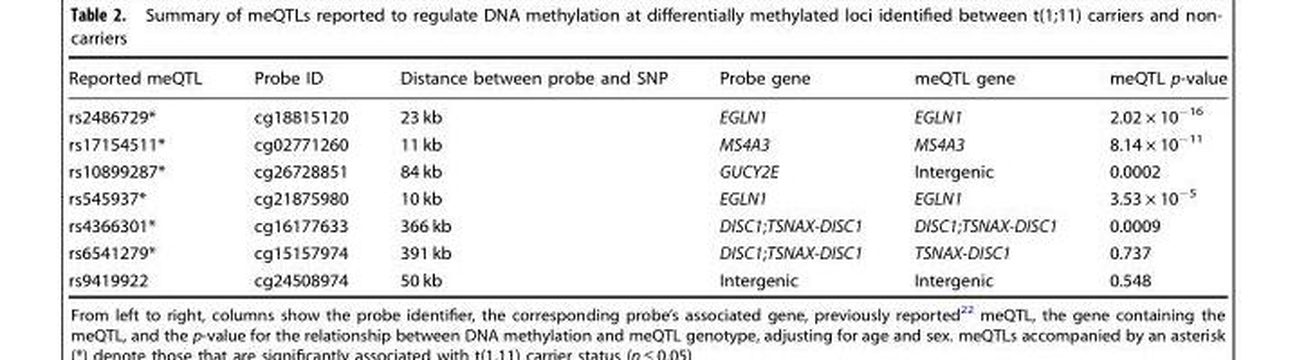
<table><thead><tr><td>Reported meQTL</td><td>Probe ID</td><td>Distance between probe and SNP</td><td>Probe gene</td><td>meQTL gene</td><td>meQTL p-value</td></tr></thead><tbody><tr><td>rs2486729*</td><td>cg18815120</td><td>23 kb</td><td>EGLN1</td><td>EGLN1</td><td>2.02 × 10<sup>−16</sup></td></tr><tr><td>rs17154511*</td><td>cg02771260</td><td>11 kb</td><td>MS4A3</td><td>MS4A3</td><td>8.14 × 10<sup>−11</sup></td></tr><tr><td>rs10899287*</td><td>cg26728851</td><td>84 kb</td><td>GUCY2E</td><td>Intergenic</td><td>0.0002</td></tr><tr><td>rs545937*</td><td>cg21875980</td><td>10 kb</td><td>EGLN1</td><td>EGLN1</td><td>3.53 × 10<sup>−5</sup></td></tr><tr><td>rs4366301*</td><td>cg16177633</td><td>366 kb</td><td>DISC1;TSNAX-DISC1</td><td>DISC1;TSNAX-DISC1</td><td>0.0009</td></tr><tr><td>rs6541279*</td><td>cg15157974</td><td>391 kb</td><td>DISC1;TSNAX-DISC1</td><td>TSNAX-DISC1</td><td>0.737</td></tr><tr><td>rs9419922</td><td>cg24508974</td><td>50 kb</td><td>Intergenic</td><td>Intergenic</td><td>0.548</td></tr></tbody></table>